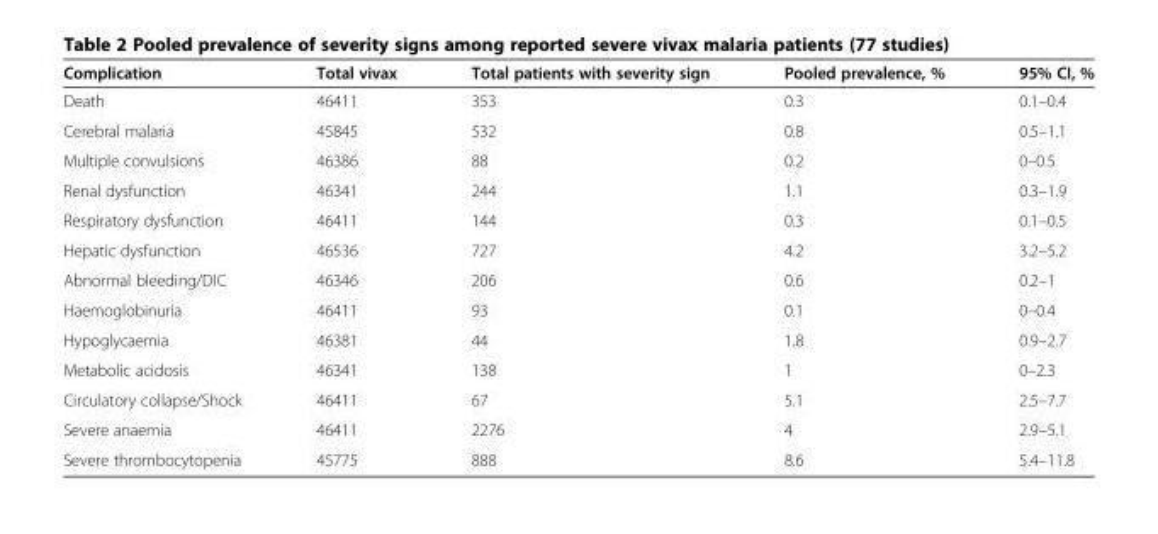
<table><thead><tr><td>Complication</td><td>Total vivax</td><td>Total patients with severity sign</td><td>Pooled prevalence, %</td><td>95% CI, %</td></tr></thead><tbody><tr><td>Death</td><td>46411</td><td>353</td><td>0.3</td><td>0.1–0.4</td></tr><tr><td>Cerebral malaria</td><td>45845</td><td>532</td><td>0.8</td><td>0.5–1.1</td></tr><tr><td>Multiple convulsions</td><td>46386</td><td>88</td><td>0.2</td><td>0–0.5</td></tr><tr><td>Renal dysfunction</td><td>46341</td><td>244</td><td>1.1</td><td>0.3–1.9</td></tr><tr><td>Respiratory dysfunction</td><td>46411</td><td>144</td><td>0.3</td><td>0.1–0.5</td></tr><tr><td>Hepatic dysfunction</td><td>46536</td><td>727</td><td>4.2</td><td>3.2–5.2</td></tr><tr><td>Abnormal bleeding/DIC</td><td>46346</td><td>206</td><td>0.6</td><td>0.2–1</td></tr><tr><td>Haemoglobinuria</td><td>46411</td><td>93</td><td>0.1</td><td>0–0.4</td></tr><tr><td>Hypoglycaemia</td><td>46381</td><td>44</td><td>1.8</td><td>0.9–2.7</td></tr><tr><td>Metabolic acidosis</td><td>46341</td><td>138</td><td>1</td><td>0–2.3</td></tr><tr><td>Circulatory collapse/Shock</td><td>46411</td><td>67</td><td>5.1</td><td>2.5–7.7</td></tr><tr><td>Severe anaemia</td><td>46411</td><td>2276</td><td>4</td><td>2.9–5.1</td></tr><tr><td>Severe thrombocytopenia</td><td>45775</td><td>888</td><td>8.6</td><td>5.4–11.8</td></tr></tbody></table>